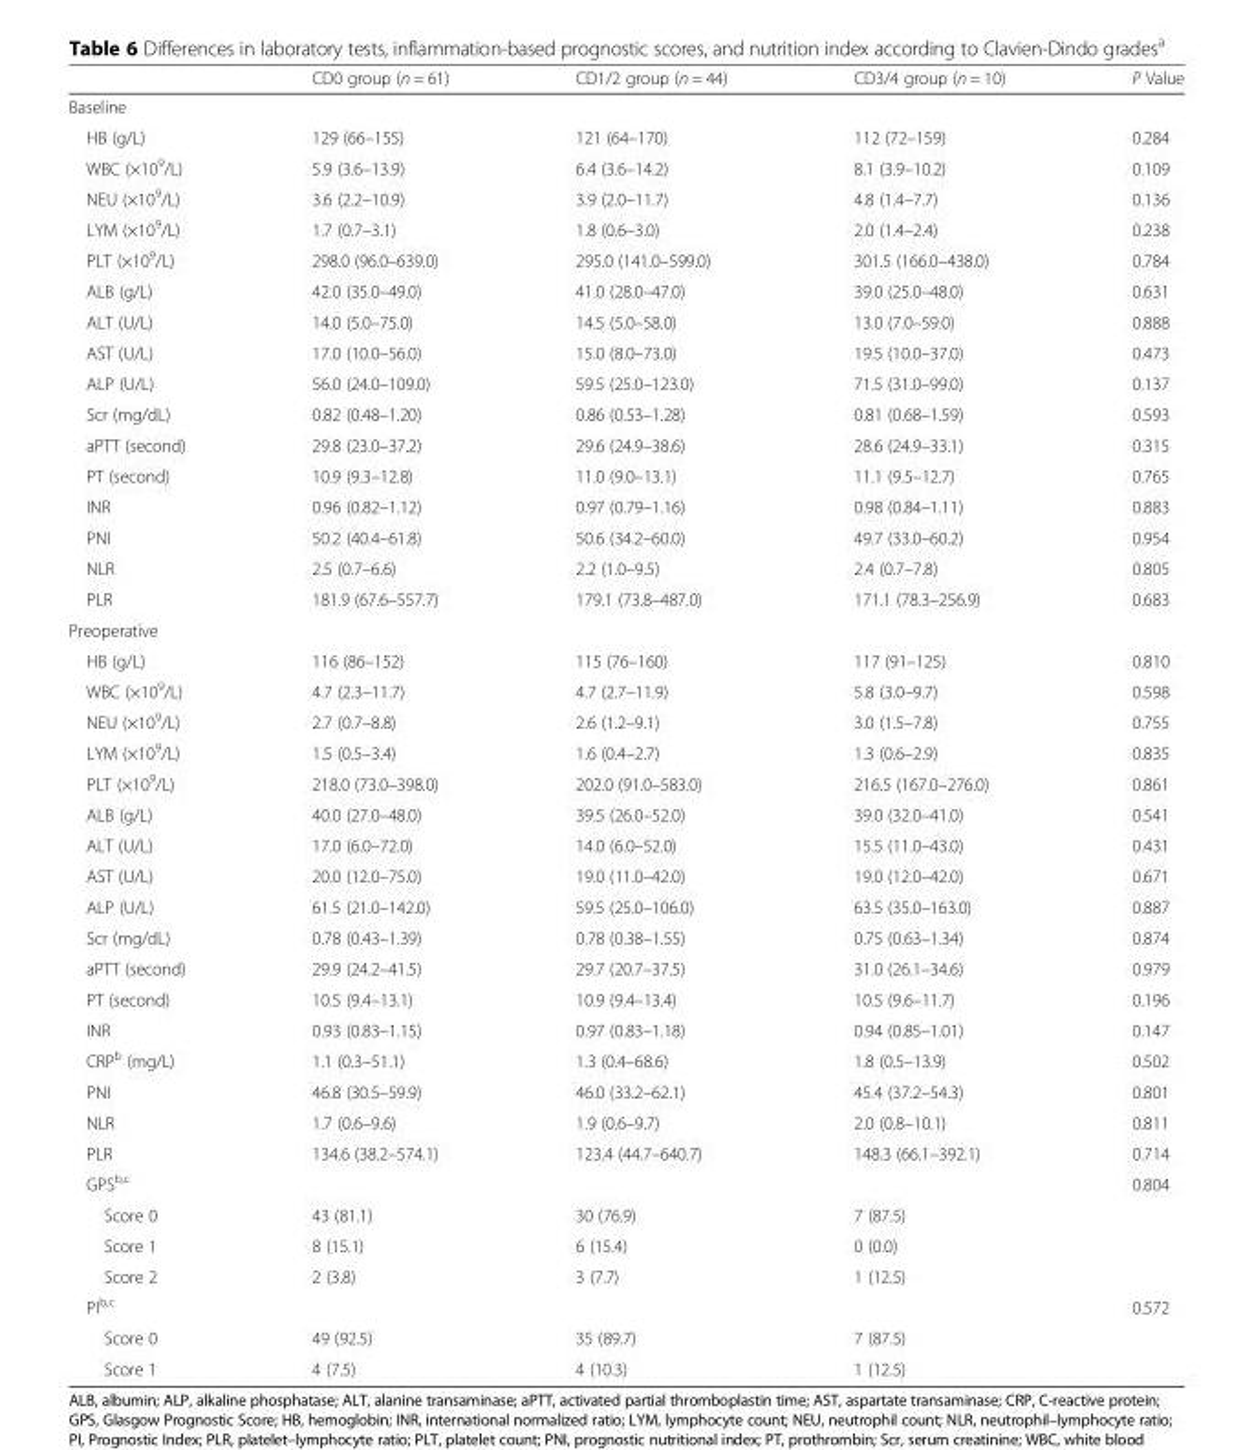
<table><thead><tr><td></td><td>CD0 group (n = 61)</td><td>CD1/2 group (n = 44)</td><td>CD3/4 group (n = 10)</td><td>P Value</td></tr></thead><tbody><tr><td colspan="5">Baseline</td></tr><tr><td>HB (g/L)</td><td>129 (66–155)</td><td>121 (64–170)</td><td>112 (72–159)</td><td>0.284</td></tr><tr><td>WBC (×10<sup>9</sup>/L)</td><td>5.9 (3.6–13.9)</td><td>6.4 (3.6–14.2)</td><td>8.1 (3.9–10.2)</td><td>0.109</td></tr><tr><td>NEU (×10<sup>9</sup>/L)</td><td>3.6 (2.2–10.9)</td><td>3.9 (2.0–11.7)</td><td>4.8 (1.4–7.7)</td><td>0.136</td></tr><tr><td>LYM (×10<sup>9</sup>/L)</td><td>1.7 (0.7–3.1)</td><td>1.8 (0.6–3.0)</td><td>2.0 (1.4–2.4)</td><td>0.238</td></tr><tr><td>PLT (×10<sup>9</sup>/L)</td><td>298.0 (96.0–639.0)</td><td>295.0 (141.0–599.0)</td><td>301.5 (166.0–438.0)</td><td>0.784</td></tr><tr><td>ALB (g/L)</td><td>42.0 (35.0–49.0)</td><td>41.0 (28.0–47.0)</td><td>39.0 (25.0–48.0)</td><td>0.631</td></tr><tr><td>ALT (U/L)</td><td>14.0 (5.0–75.0)</td><td>14.5 (5.0–58.0)</td><td>13.0 (7.0–59.0)</td><td>0.888</td></tr><tr><td>AST (U/L)</td><td>17.0 (10.0–56.0)</td><td>15.0 (8.0–73.0)</td><td>19.5 (10.0–37.0)</td><td>0.473</td></tr><tr><td>ALP (U/L)</td><td>56.0 (24.0–109.0)</td><td>59.5 (25.0–123.0)</td><td>71.5 (31.0–99.0)</td><td>0.137</td></tr><tr><td>Scr (mg/dL)</td><td>0.82 (0.48–1.20)</td><td>0.86 (0.53–1.28)</td><td>0.81 (0.68–1.59)</td><td>0.593</td></tr><tr><td>aPTT (second)</td><td>29.8 (23.0–37.2)</td><td>29.6 (24.9–38.6)</td><td>28.6 (24.9–33.1)</td><td>0.315</td></tr><tr><td>PT (second)</td><td>10.9 (9.3–12.8)</td><td>11.0 (9.0–13.1)</td><td>11.1 (9.5–12.7)</td><td>0.765</td></tr><tr><td>INR</td><td>0.96 (0.82–1.12)</td><td>0.97 (0.79–1.16)</td><td>0.98 (0.84–1.11)</td><td>0.883</td></tr><tr><td>PNI</td><td>50.2 (40.4–61.8)</td><td>50.6 (34.2–60.0)</td><td>49.7 (33.0–60.2)</td><td>0.954</td></tr><tr><td>NLR</td><td>2.5 (0.7–6.6)</td><td>2.2 (1.0–9.5)</td><td>2.4 (0.7–7.8)</td><td>0.805</td></tr><tr><td>PLR</td><td>181.9 (67.6–557.7)</td><td>179.1 (73.8–487.0)</td><td>171.1 (78.3–256.9)</td><td>0.683</td></tr><tr><td colspan="5">Preoperative</td></tr><tr><td>HB (g/L)</td><td>116 (86–152)</td><td>115 (76–160)</td><td>117 (91–125)</td><td>0.810</td></tr><tr><td>WBC (×10<sup>9</sup>/L)</td><td>4.7 (2.3–11.7)</td><td>4.7 (2.7–11.9)</td><td>5.8 (3.0–9.7)</td><td>0.598</td></tr><tr><td>NEU (×10<sup>9</sup>/L)</td><td>2.7 (0.7–8.8)</td><td>2.6 (1.2–9.1)</td><td>3.0 (1.5–7.8)</td><td>0.755</td></tr><tr><td>LYM (×10<sup>9</sup>/L)</td><td>1.5 (0.5–3.4)</td><td>1.6 (0.4–2.7)</td><td>1.3 (0.6–2.9)</td><td>0.835</td></tr><tr><td>PLT (×10<sup>9</sup>/L)</td><td>218.0 (73.0–398.0)</td><td>202.0 (91.0–583.0)</td><td>216.5 (167.0–276.0)</td><td>0.861</td></tr><tr><td>ALB (g/L)</td><td>40.0 (27.0–48.0)</td><td>39.5 (26.0–52.0)</td><td>39.0 (32.0–41.0)</td><td>0.541</td></tr><tr><td>ALT (U/L)</td><td>17.0 (6.0–72.0)</td><td>14.0 (6.0–52.0)</td><td>15.5 (11.0–43.0)</td><td>0.431</td></tr><tr><td>AST (U/L)</td><td>20.0 (12.0–75.0)</td><td>19.0 (11.0–42.0)</td><td>19.0 (12.0–42.0)</td><td>0.671</td></tr><tr><td>ALP (U/L)</td><td>61.5 (21.0–142.0)</td><td>59.5 (25.0–106.0)</td><td>63.5 (35.0–163.0)</td><td>0.887</td></tr><tr><td>Scr (mg/dL)</td><td>0.78 (0.43–1.39)</td><td>0.78 (0.38–1.55)</td><td>0.75 (0.63–1.34)</td><td>0.874</td></tr><tr><td>aPTT (second)</td><td>29.9 (24.2–41.5)</td><td>29.7 (20.7–37.5)</td><td>31.0 (26.1–34.6)</td><td>0.979</td></tr><tr><td>PT (second)</td><td>10.5 (9.4–13.1)</td><td>10.9 (9.4–13.4)</td><td>10.5 (9.6–11.7)</td><td>0.196</td></tr><tr><td>INR</td><td>0.93 (0.83–1.15)</td><td>0.97 (0.83–1.18)</td><td>0.94 (0.85–1.01)</td><td>0.147</td></tr><tr><td>CRP<sup>b</sup> (mg/L)</td><td>1.1 (0.3–51.1)</td><td>1.3 (0.4–68.6)</td><td>1.8 (0.5–13.9)</td><td>0.502</td></tr><tr><td>PNI</td><td>46.8 (30.5–59.9)</td><td>46.0 (33.2–62.1)</td><td>45.4 (37.2–54.3)</td><td>0.801</td></tr><tr><td>NLR</td><td>1.7 (0.6–9.6)</td><td>1.9 (0.6–9.7)</td><td>2.0 (0.8–10.1)</td><td>0.811</td></tr><tr><td>PLR</td><td>134.6 (38.2–574.1)</td><td>123.4 (44.7–640.7)</td><td>148.3 (66.1–392.1)</td><td>0.714</td></tr><tr><td>GPS<sup>b,c</sup></td><td></td><td></td><td></td><td>0.804</td></tr><tr><td>Score 0</td><td>43 (81.1)</td><td>30 (76.9)</td><td>7 (87.5)</td><td></td></tr><tr><td>Score 1</td><td>8 (15.1)</td><td>6 (15.4)</td><td>0 (0.0)</td><td></td></tr><tr><td>Score 2</td><td>2 (3.8)</td><td>3 (7.7)</td><td>1 (12.5)</td><td></td></tr><tr><td>PI<sup>b,c</sup></td><td></td><td></td><td></td><td>0.572</td></tr><tr><td>Score 0</td><td>49 (92.5)</td><td>35 (89.7)</td><td>7 (87.5)</td><td></td></tr><tr><td>Score 1</td><td>4 (7.5)</td><td>4 (10.3)</td><td>1 (12.5)</td><td></td></tr></tbody></table>